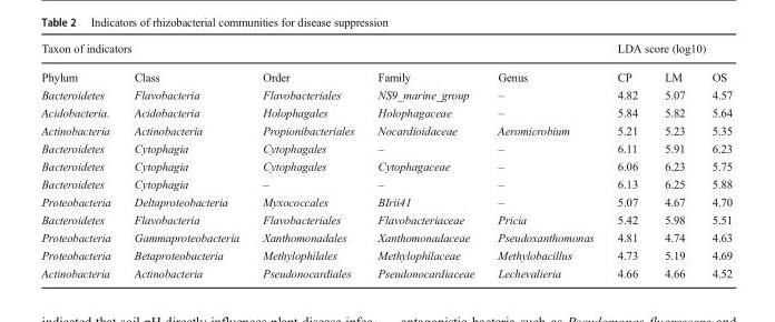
<table><thead><tr><td colspan="5">Taxon of indicators</td><td colspan="3">LDA score (log10)</td></tr><tr><td>Phylum</td><td>Class</td><td>Order</td><td>Family</td><td>Genus</td><td>CP</td><td>LM</td><td>OS</td></tr></thead><tbody><tr><td>Bacteroidetes</td><td>Flavobacteria</td><td>Flavobacteriales</td><td>NS9_marine_group</td><td>–</td><td>4.82</td><td>5.07</td><td>4.57</td></tr><tr><td>Acidobacteria.</td><td>Acidobacteria</td><td>Holophagales</td><td>Holophagaceae</td><td>–</td><td>5.84</td><td>5.82</td><td>5.64</td></tr><tr><td>Actinobacteria</td><td>Actinobacteria</td><td>Propionibacteriales</td><td>Nocardioidaceae</td><td>Aeromicrobium</td><td>5.21</td><td>5.23</td><td>5.35</td></tr><tr><td>Bacteroidetes</td><td>Cytophagia</td><td>Cytophagales</td><td>–</td><td>–</td><td>6.11</td><td>5.91</td><td>6.23</td></tr><tr><td>Bacteroidetes</td><td>Cytophagia</td><td>Cytophagales</td><td>Cytophagaceae</td><td>–</td><td>6.06</td><td>6.23</td><td>5.75</td></tr><tr><td>Bacteroidetes</td><td>Cytophagia</td><td>–</td><td>–</td><td>–</td><td>6.13</td><td>6.25</td><td>5.88</td></tr><tr><td>Proteobacteria</td><td>Deltaproteobacteria</td><td>Myxococcales</td><td>BIrii41</td><td>–</td><td>5.07</td><td>4.67</td><td>4.70</td></tr><tr><td>Bacteroidetes</td><td>Flavobacteria</td><td>Flavobacteriales</td><td>Flavobacteriaceae</td><td>Pricia</td><td>5.42</td><td>5.98</td><td>5.51</td></tr><tr><td>Proteobacteria</td><td>Gammaproteobacteria</td><td>Xanthomonadales</td><td>Xanthomonadaceae</td><td>Pseudoxanthomonas</td><td>4.81</td><td>4.74</td><td>4.63</td></tr><tr><td>Proteobacteria</td><td>Betaproteobacteria</td><td>Methylophilales</td><td>Methylophilaceae</td><td>Methylobacillus</td><td>4.73</td><td>5.19</td><td>4.69</td></tr><tr><td>Actinobacteria</td><td>Actinobacteria</td><td>Pseudonocardiales</td><td>Pseudonocardiaceae</td><td>Lechevalieria</td><td>4.66</td><td>4.66</td><td>4.52</td></tr></tbody></table>